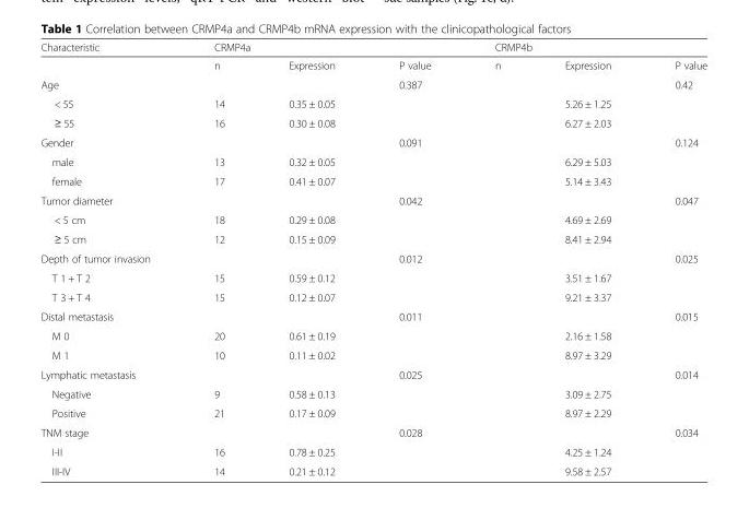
<table><thead><tr><td rowspan="2">Characteristic</td><td colspan="3">CRMP4a</td><td colspan="3">CRMP4b</td></tr><tr><td>n</td><td>Expression</td><td>P value</td><td>n</td><td>Expression</td><td>P value</td></tr></thead><tbody><tr><td>Age</td><td></td><td></td><td>0.387</td><td></td><td></td><td>0.42</td></tr><tr><td>&lt; 55</td><td>14</td><td>0.35 ± 0.05</td><td></td><td></td><td>5.26 ± 1.25</td><td></td></tr><tr><td>≥ 55</td><td>16</td><td>0.30 ± 0.08</td><td></td><td></td><td>6.27 ± 2.03</td><td></td></tr><tr><td>Gender</td><td></td><td></td><td>0.091</td><td></td><td></td><td>0.124</td></tr><tr><td>male</td><td>13</td><td>0.32 ± 0.05</td><td></td><td></td><td>6.29 ± 5.03</td><td></td></tr><tr><td>female</td><td>17</td><td>0.41 ± 0.07</td><td></td><td></td><td>5.14 ± 3.43</td><td></td></tr><tr><td>Tumor diameter</td><td></td><td></td><td>0.042</td><td></td><td></td><td>0.047</td></tr><tr><td>&lt; 5 cm</td><td>18</td><td>0.29 ± 0.08</td><td></td><td></td><td>4.69 ± 2.69</td><td></td></tr><tr><td>≥ 5 cm</td><td>12</td><td>0.15 ± 0.09</td><td></td><td></td><td>8.41 ± 2.94</td><td></td></tr><tr><td>Depth of tumor invasion</td><td></td><td></td><td>0.012</td><td></td><td></td><td>0.025</td></tr><tr><td>T 1 + T 2</td><td>15</td><td>0.59 ± 0.12</td><td></td><td></td><td>3.51 ± 1.67</td><td></td></tr><tr><td>T 3 + T 4</td><td>15</td><td>0.12 ± 0.07</td><td></td><td></td><td>9.21 ± 3.37</td><td></td></tr><tr><td>Distal metastasis</td><td></td><td></td><td>0.011</td><td></td><td></td><td>0.015</td></tr><tr><td>M 0</td><td>20</td><td>0.61 ± 0.19</td><td></td><td></td><td>2.16 ± 1.58</td><td></td></tr><tr><td>M 1</td><td>10</td><td>0.11 ± 0.02</td><td></td><td></td><td>8.97 ± 3.29</td><td></td></tr><tr><td>Lymphatic metastasis</td><td></td><td></td><td>0.025</td><td></td><td></td><td>0.014</td></tr><tr><td>Negative</td><td>9</td><td>0.58 ± 0.13</td><td></td><td></td><td>3.09 ± 2.75</td><td></td></tr><tr><td>Positive</td><td>21</td><td>0.17 ± 0.09</td><td></td><td></td><td>8.97 ± 2.29</td><td></td></tr><tr><td>TNM stage</td><td></td><td></td><td>0.028</td><td></td><td></td><td>0.034</td></tr><tr><td>I-II</td><td>16</td><td>0.78 ± 0.25</td><td></td><td></td><td>4.25 ± 1.24</td><td></td></tr><tr><td>III-IV</td><td>14</td><td>0.21 ± 0.12</td><td></td><td></td><td>9.58 ± 2.57</td><td></td></tr></tbody></table>